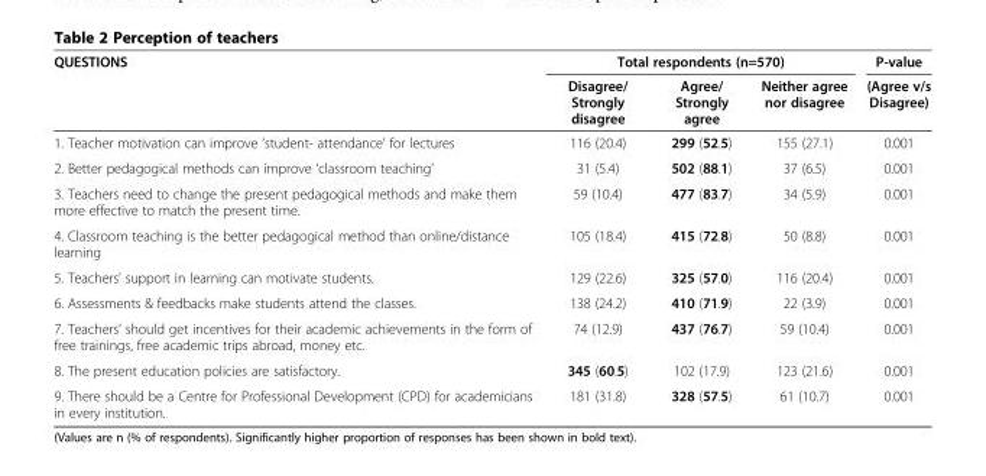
<table><thead><tr><td rowspan="2">QUESTIONS</td><td colspan="3">Total respondents (n=570)</td><td rowspan="2">P-value (Agree v/s Disagree)</td></tr><tr><td>Disagree/ Strongly disagree</td><td>Agree/ Strongly agree</td><td>Neither agree nor disagree</td></tr></thead><tbody><tr><td>1. Teacher motivation can improve ‘student- attendance’ for lectures</td><td>116 (20.4)</td><td>299 (52.5)</td><td>155 (27.1)</td><td>0.001</td></tr><tr><td>2. Better pedagogical methods can improve ‘classroom teaching’</td><td>31 (5.4)</td><td>502 (88.1)</td><td>37 (6.5)</td><td>0.001</td></tr><tr><td>3. Teachers need to change the present pedagogical methods and make them more effective to match the present time.</td><td>59 (10.4)</td><td>477 (83.7)</td><td>34 (5.9)</td><td>0.001</td></tr><tr><td>4. Classroom teaching is the better pedagogical method than online/distance learning</td><td>105 (18.4)</td><td>415 (72.8)</td><td>50 (8.8)</td><td>0.001</td></tr><tr><td>5. Teachers’ support in learning can motivate students.</td><td>129 (22.6)</td><td>325 (57.0)</td><td>116 (20.4)</td><td>0.001</td></tr><tr><td>6. Assessments &amp; feedbacks make students attend the classes.</td><td>138 (24.2)</td><td>410 (71.9)</td><td>22 (3.9)</td><td>0.001</td></tr><tr><td>7. Teachers’ should get incentives for their academic achievements in the form of free trainings, free academic trips abroad, money etc.</td><td>74 (12.9)</td><td>437 (76.7)</td><td>59 (10.4)</td><td>0.001</td></tr><tr><td>8. The present education policies are satisfactory.</td><td>345 (60.5)</td><td>102 (17.9)</td><td>123 (21.6)</td><td>0.001</td></tr><tr><td>9. There should be a Centre for Professional Development (CPD) for academicians in every institution.</td><td>181 (31.8)</td><td>328 (57.5)</td><td>61 (10.7)</td><td>0.001</td></tr></tbody></table>